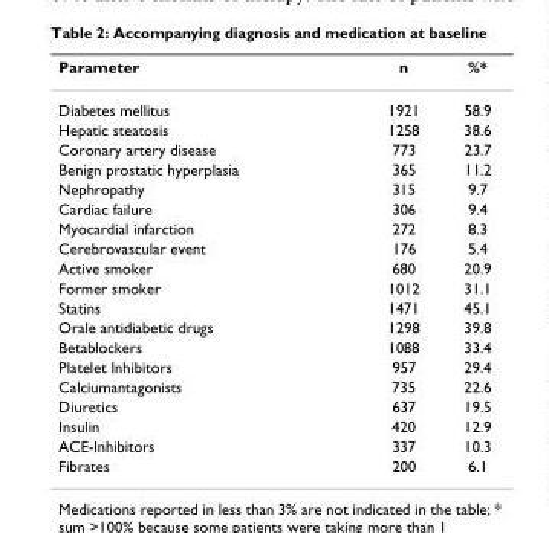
<table><thead><tr><td>Parameter</td><td>n</td><td>%*</td></tr></thead><tbody><tr><td>Diabetes mellitus</td><td>1921</td><td>58.9</td></tr><tr><td>Hepatic steatosis</td><td>1258</td><td>38.6</td></tr><tr><td>Coronary artery disease</td><td>773</td><td>23.7</td></tr><tr><td>Benign prostatic hyperplasia</td><td>365</td><td>11.2</td></tr><tr><td>Nephropathy</td><td>315</td><td>9.7</td></tr><tr><td>Cardiac failure</td><td>306</td><td>9.4</td></tr><tr><td>Myocardial infarction</td><td>272</td><td>8.3</td></tr><tr><td>Cerebrovascular event</td><td>176</td><td>5.4</td></tr><tr><td>Active smoker</td><td>680</td><td>20.9</td></tr><tr><td>Former smoker</td><td>1012</td><td>31.1</td></tr><tr><td>Statins</td><td>1471</td><td>45.1</td></tr><tr><td>Orale antidiabetic drugs</td><td>1298</td><td>39.8</td></tr><tr><td>Betablockers</td><td>1088</td><td>33.4</td></tr><tr><td>Platelet Inhibitors</td><td>957</td><td>29.4</td></tr><tr><td>Calciumantagonists</td><td>735</td><td>22.6</td></tr><tr><td>Diuretics</td><td>637</td><td>19.5</td></tr><tr><td>Insulin</td><td>420</td><td>12.9</td></tr><tr><td>ACE-Inhibitors</td><td>337</td><td>10.3</td></tr><tr><td>Fibrates</td><td>200</td><td>6.1</td></tr></tbody></table>